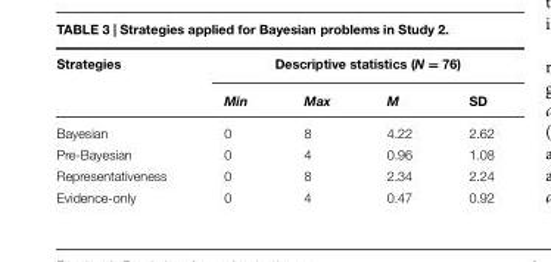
<table><thead><tr><td rowspan="2">Strategies</td><td colspan="4">Descriptive statistics (N = 76)</td></tr><tr><td>Min</td><td>Max</td><td>M</td><td>SD</td></tr></thead><tbody><tr><td>Bayesian</td><td>0</td><td>8</td><td>4.22</td><td>2.62</td></tr><tr><td>Pre-Bayesian</td><td>0</td><td>4</td><td>0.96</td><td>1.08</td></tr><tr><td>Representativeness</td><td>0</td><td>8</td><td>2.34</td><td>2.24</td></tr><tr><td>Evidence-only</td><td>0</td><td>4</td><td>0.47</td><td>0.92</td></tr></tbody></table>